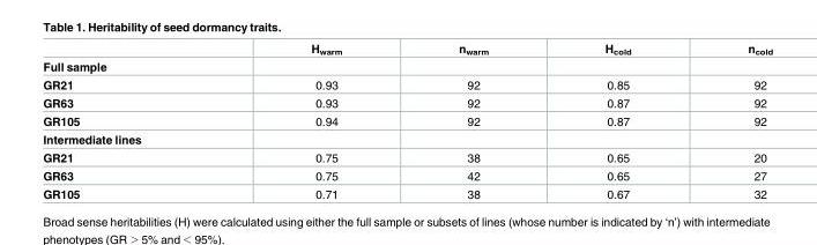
<table><thead><tr><td></td><td>H<sub>warm</sub></td><td>n<sub>warm</sub></td><td>H<sub>cold</sub></td><td>n<sub>cold</sub></td></tr></thead><tbody><tr><td colspan="5">Full sample</td></tr><tr><td>GR21</td><td>0.93</td><td>92</td><td>0.85</td><td>92</td></tr><tr><td>GR63</td><td>0.93</td><td>92</td><td>0.87</td><td>92</td></tr><tr><td>GR105</td><td>0.94</td><td>92</td><td>0.87</td><td>92</td></tr><tr><td colspan="5">Intermediate lines</td></tr><tr><td>GR21</td><td>0.75</td><td>38</td><td>0.65</td><td>20</td></tr><tr><td>GR63</td><td>0.75</td><td>42</td><td>0.65</td><td>27</td></tr><tr><td>GR105</td><td>0.71</td><td>38</td><td>0.67</td><td>32</td></tr></tbody></table>